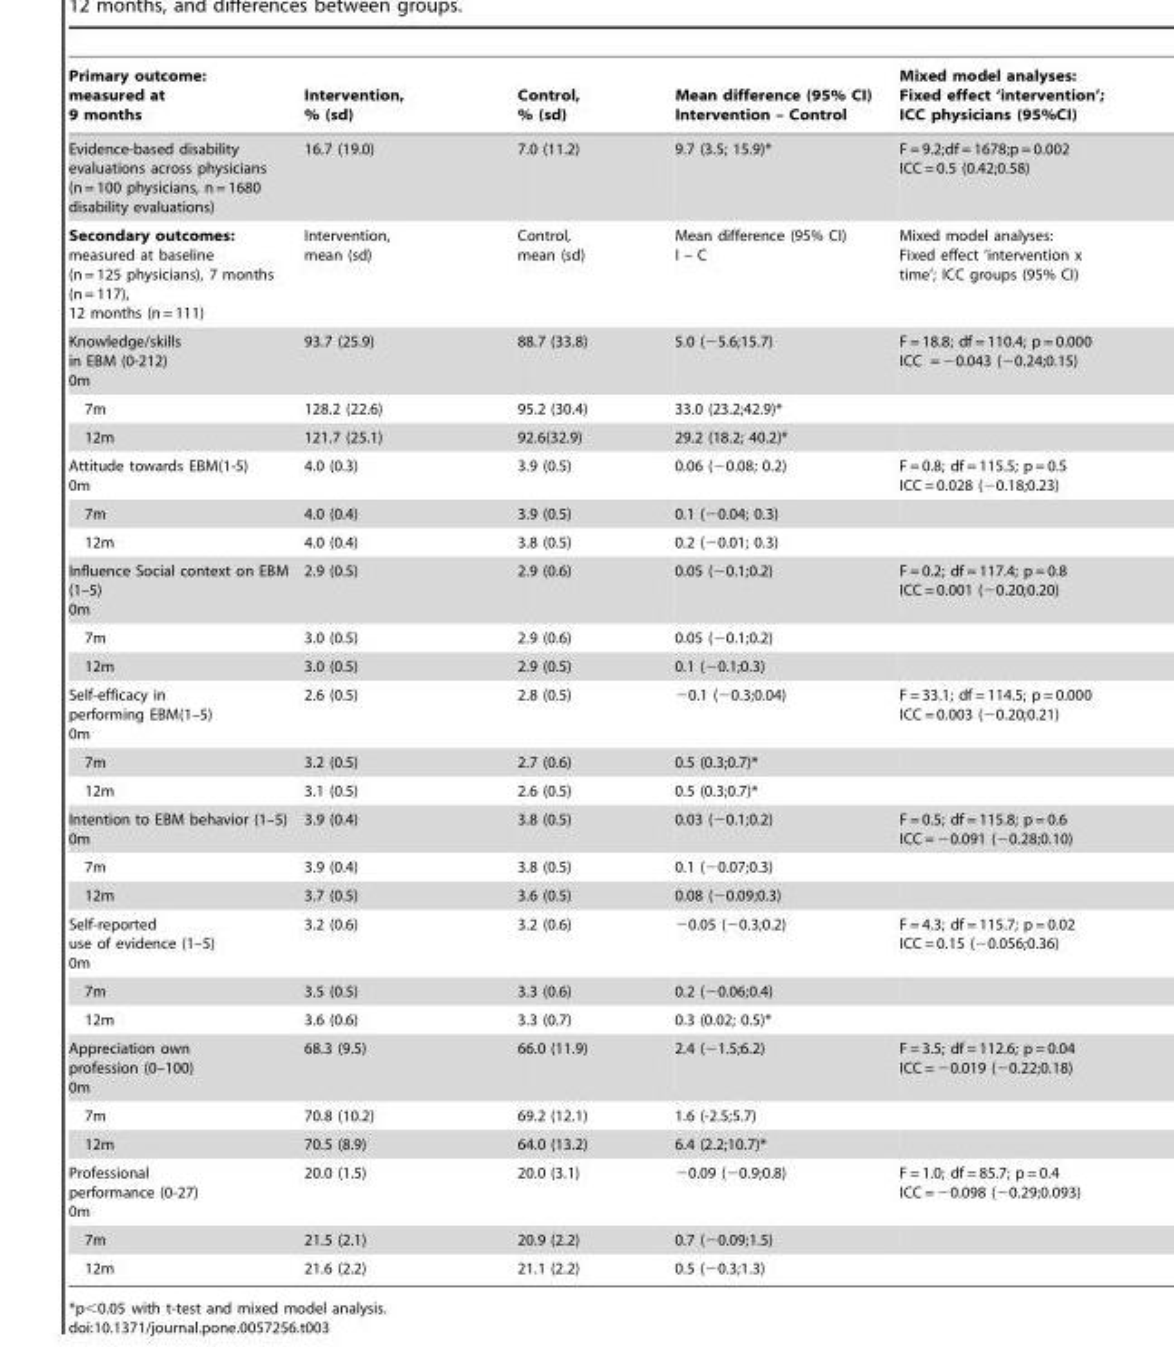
<table><thead><tr><td>Primary outcome: measured at 9 months</td><td>Intervention, % (sd)</td><td>Control, % (sd)</td><td>Mean difference (95% CI) Intervention – Control</td><td>Mixed model analyses: Fixed effect ‘intervention’; ICC physicians (95%CI)</td></tr></thead><tbody><tr><td>Evidence-based disability evaluations across physicians (n = 100 physicians, n = 1680 disability evaluations)</td><td>16.7 (19.0)</td><td>7.0 (11.2)</td><td>9.7 (3.5; 15.9)*</td><td>F = 9.2;df = 1678;p = 0.002 ICC = 0.5 (0.42;0.58)</td></tr><tr><td>Secondary outcomes: measured at baseline (n = 125 physicians), 7 months (n = 117), 12 months (n = 111)</td><td>Intervention, mean (sd)</td><td>Control, mean (sd)</td><td>Mean difference (95% CI) I – C</td><td>Mixed model analyses: Fixed effect ‘intervention x time’; ICC groups (95% CI)</td></tr><tr><td>Knowledge/skills in EBM (0-212) 0m</td><td>93.7 (25.9)</td><td>88.7 (33.8)</td><td>5.0 (−5.6;15.7)</td><td>F = 18.8; df = 110.4; p = 0.000 ICC = −0.043 (−0.24;0.15)</td></tr><tr><td>7m</td><td>128.2 (22.6)</td><td>95.2 (30.4)</td><td>33.0 (23.2;42.9)*</td><td></td></tr><tr><td>12m</td><td>121.7 (25.1)</td><td>92.6(32.9)</td><td>29.2 (18.2; 40.2)*</td><td></td></tr><tr><td>Attitude towards EBM(1-5) 0m</td><td>4.0 (0.3)</td><td>3.9 (0.5)</td><td>0.06 (−0.08; 0.2)</td><td>F = 0.8; df = 115.5; p = 0.5 ICC = 0.028 (−0.18;0.23)</td></tr><tr><td>7m</td><td>4.0 (0.4)</td><td>3.9 (0.5)</td><td>0.1 (−0.04; 0.3)</td><td></td></tr><tr><td>12m</td><td>4.0 (0.4)</td><td>3.8 (0.5)</td><td>0.2 (−0.01; 0.3)</td><td></td></tr><tr><td>Influence Social context on EBM (1–5) 0m</td><td>2.9 (0.5)</td><td>2.9 (0.6)</td><td>0.05 (−0.1;0.2)</td><td>F = 0.2; df = 117.4; p = 0.8 ICC = 0.001 (−0.20;0.20)</td></tr><tr><td>7m</td><td>3.0 (0.5)</td><td>2.9 (0.6)</td><td>0.05 (−0.1;0.2)</td><td></td></tr><tr><td>12m</td><td>3.0 (0.5)</td><td>2.9 (0.5)</td><td>0.1 (−0.1;0.3)</td><td></td></tr><tr><td>Self-efficacy in performing EBM(1–5) 0m</td><td>2.6 (0.5)</td><td>2.8 (0.5)</td><td>−0.1 (−0.3;0.04)</td><td>F = 33.1; df = 114.5; p = 0.000 ICC = 0.003 (−0.20;0.21)</td></tr><tr><td>7m</td><td>3.2 (0.5)</td><td>2.7 (0.6)</td><td>0.5 (0.3;0.7)*</td><td></td></tr><tr><td>12m</td><td>3.1 (0.5)</td><td>2.6 (0.5)</td><td>0.5 (0.3;0.7)*</td><td></td></tr><tr><td>Intention to EBM behavior (1–5) 0m</td><td>3.9 (0.4)</td><td>3.8 (0.5)</td><td>0.03 (−0.1;0.2)</td><td>F = 0.5; df = 115.8; p = 0.6 ICC = −0.091 (−0.28;0.10)</td></tr><tr><td>7m</td><td>3.9 (0.4)</td><td>3.8 (0.5)</td><td>0.1 (−0.07;0.3)</td><td></td></tr><tr><td>12m</td><td>3.7 (0.5)</td><td>3.6 (0.5)</td><td>0.08 (−0.09;0.3)</td><td></td></tr><tr><td>Self-reported use of evidence (1–5) 0m</td><td>3.2 (0.6)</td><td>3.2 (0.6)</td><td>−0.05 (−0.3;0.2)</td><td>F = 4.3; df = 115.7; p = 0.02 ICC = 0.15 (−0.056;0.36)</td></tr><tr><td>7m</td><td>3.5 (0.5)</td><td>3.3 (0.6)</td><td>0.2 (−0.06;0.4)</td><td></td></tr><tr><td>12m</td><td>3.6 (0.6)</td><td>3.3 (0.7)</td><td>0.3 (0.02; 0.5)*</td><td></td></tr><tr><td>Appreciation own profession (0–100) 0m</td><td>68.3 (9.5)</td><td>66.0 (11.9)</td><td>2.4 (−1.5;6.2)</td><td>F = 3.5; df = 112.6; p = 0.04 ICC = −0.019 (−0.22;0.18)</td></tr><tr><td>7m</td><td>70.8 (10.2)</td><td>69.2 (12.1)</td><td>1.6 (-2.5;5.7)</td><td></td></tr><tr><td>12m</td><td>70.5 (8.9)</td><td>64.0 (13.2)</td><td>6.4 (2.2;10.7)*</td><td></td></tr><tr><td>Professional performance (0-27) 0m</td><td>20.0 (1.5)</td><td>20.0 (3.1)</td><td>−0.09 (−0.9;0.8)</td><td>F = 1.0; df = 85.7; p = 0.4 ICC = −0.098 (−0.29;0.093)</td></tr><tr><td>7m</td><td>21.5 (2.1)</td><td>20.9 (2.2)</td><td>0.7 (−0.09;1.5)</td><td></td></tr><tr><td>12m</td><td>21.6 (2.2)</td><td>21.1 (2.2)</td><td>0.5 (−0.3;1.3)</td><td></td></tr></tbody></table>